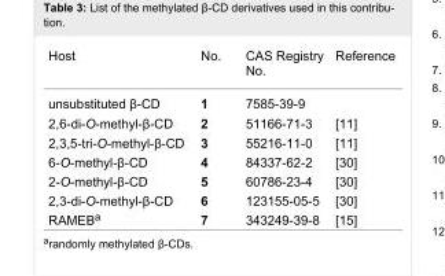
<table><tbody><tr><td>Host</td><td>No.</td><td>CAS Registry No.</td><td>Reference</td></tr><tr><td>unsubstituted β-CD</td><td>1</td><td>7585-39-9</td><td></td></tr><tr><td>2,6-di-O-methyl-β-CD</td><td>2</td><td>51166-71-3</td><td>[11]</td></tr><tr><td>2,3,5-tri-O-methyl-β-CD</td><td>3</td><td>55216-11-0</td><td>[11]</td></tr><tr><td>6-O-methyl-β-CD</td><td>4</td><td>84337-62-2</td><td>[30]</td></tr><tr><td>2-O-methyl-β-CD</td><td>5</td><td>60786-23-4</td><td>[30]</td></tr><tr><td>2,3-di-O-methyl-β-CD</td><td>6</td><td>123155-05-5</td><td>[30]</td></tr><tr><td>RAMEB<sup>a</sup></td><td>7</td><td>343249-39-8</td><td>[15]</td></tr></tbody></table>